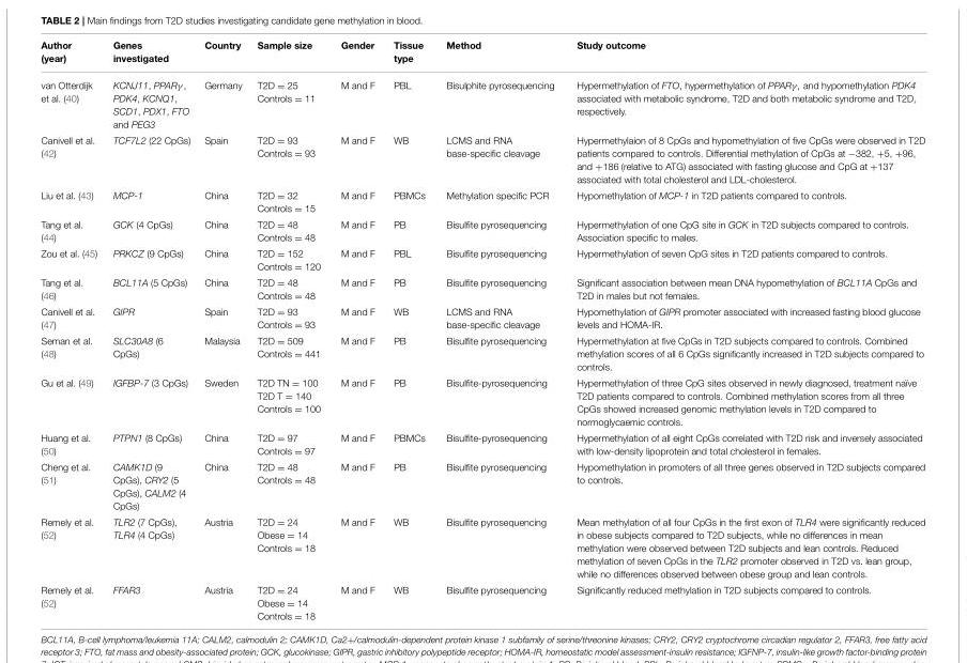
<table><thead><tr><td>Author (year)</td><td>Genes investigated</td><td>Country</td><td>Sample size</td><td>Gender</td><td>Tissue type</td><td>Method</td><td>Study outcome</td></tr></thead><tbody><tr><td>van Otterdijk et al. (40)</td><td>KCNJ11, PPARγ , PDK4, KCNQ1, SCD1, PDX1, FTO and PEG3</td><td>Germany</td><td>T2D = 25 Controls = 11</td><td>M and F</td><td>PBL</td><td>Bisulphite pyrosequencing</td><td>Hypermethylation of FTO, hypermethylation of PPARγ , and hypomethylation PDK4 associated with metabolic syndrome, T2D and both metabolic syndrome and T2D, respectively.</td></tr><tr><td>Canivell et al. (42)</td><td>TCF7L2 (22 CpGs)</td><td>Spain</td><td>T2D = 93 Controls = 93</td><td>M and F</td><td>WB</td><td>LCMS and RNA base-specific cleavage</td><td>Hypermethylaion of 8 CpGs and hypomethylation of five CpGs were observed in T2D patients compared to controls. Differential methylation of CpGs at −382, +5, +96, and +186 (relative to ATG) associated with fasting glucose and CpG at +137 associated with total cholesterol and LDL-cholesterol.</td></tr><tr><td>Liu et al. (43)</td><td>MCP-1</td><td>China</td><td>T2D = 32 Controls = 15</td><td>M and F</td><td>PBMCs</td><td>Methylation specific PCR</td><td>Hypomethylation of MCP-1 in T2D patients compared to controls.</td></tr><tr><td>Tang et al. (44)</td><td>GCK (4 CpGs)</td><td>China</td><td>T2D = 48 Controls = 48</td><td>M and F</td><td>PB</td><td>Bisulfite pyrosequencing</td><td>Hypermethylation of one CpG site in GCK in T2D subjects compared to controls. Association specific to males.</td></tr><tr><td>Zou et al. (45)</td><td>PRKCZ (9 CpGs)</td><td>China</td><td>T2D = 152 Controls = 120</td><td>M and F</td><td>PBL</td><td>Bisulfite pyrosequencing</td><td>Hypermethylation of seven CpG sites in T2D patients compared to controls.</td></tr><tr><td>Tang et al. (46)</td><td>BCL11A (5 CpGs)</td><td>China</td><td>T2D = 48 Controls = 48</td><td>M and F</td><td>PB</td><td>Bisulfite pyrosequencing</td><td>Significant association between mean DNA hypomethylation of BCL11A CpGs and T2D in males but not females.</td></tr><tr><td>Canivell et al. (47)</td><td>GIPR</td><td>Spain</td><td>T2D = 93 Controls = 93</td><td>M and F</td><td>WB</td><td>LCMS and RNA base-specific cleavage</td><td>Hypomethylation of GIPR promoter associated with increased fasting blood glucose levels and HOMA-IR.</td></tr><tr><td>Seman et al. (48)</td><td>SLC30A8 (6 CpGs)</td><td>Malaysia</td><td>T2D = 509 Controls = 441</td><td>M and F</td><td>PB</td><td>Bisulfite pyrosequencing</td><td>Hypermethylation at five CpGs in T2D subjects compared to controls. Combined methylation scores of all 6 CpGs significantly increased in T2D subjects compared to controls.</td></tr><tr><td>Gu et al. (49)</td><td>IGFBP-7 (3 CpGs)</td><td>Sweden</td><td>T2D TN = 100 T2D T = 140 Controls = 100</td><td>M and F</td><td>PB</td><td>Bisulfite-pyrosequencing</td><td>Hypermethylation of three CpG sites observed in newly diagnosed, treatment naïve T2D patients compared to controls. Combined methylation scores from all three CpGs showed increased genomic methylation levels in T2D compared to normoglycaemic controls.</td></tr><tr><td>Huang et al. (50)</td><td>PTPN1 (8 CpGs)</td><td>China</td><td>T2D = 97 Controls = 97</td><td>M and F</td><td>PBMCs</td><td>Bisulfite-pyrosequencing</td><td>Hypermethylation of all eight CpGs correlated with T2D risk and inversely associated with low-density lipoprotein and total cholesterol in females.</td></tr><tr><td>Cheng et al. (51)</td><td>CAMK1D (9 CpGs), CRY2 (5 CpGs), CALM2 (4 CpGs)</td><td>China</td><td>T2D = 48 Controls = 48</td><td>M and F</td><td>PB</td><td>Bisulfite pyrosequencing</td><td>Hypomethylation in promoters of all three genes observed in T2D subjects compared to controls.</td></tr><tr><td>Remely et al. (52)</td><td>TLR2 (7 CpGs), TLR4 (4 CpGs)</td><td>Austria</td><td>T2D = 24 Obese = 14 Controls = 18</td><td>M and F</td><td>WB</td><td>Bisulfite pyrosequencing</td><td>Mean methylation of all four CpGs in the first exon of TLR4 were significantly reduced in obese subjects compared to T2D subjects, while no differences in mean methylation were observed between T2D subjects and lean controls. Reduced methylation of seven CpGs in the TLR2 promoter observed in T2D vs. lean group, while no differences observed between obese group and lean controls.</td></tr><tr><td>Remely et al. (52)</td><td>FFAR3</td><td>Austria</td><td>T2D = 24 Obese = 14 Controls = 18</td><td>M and F</td><td>WB</td><td>Bisulfite pyrosequencing</td><td>Significantly reduced methylation in T2D subjects compared to controls.</td></tr></tbody></table>